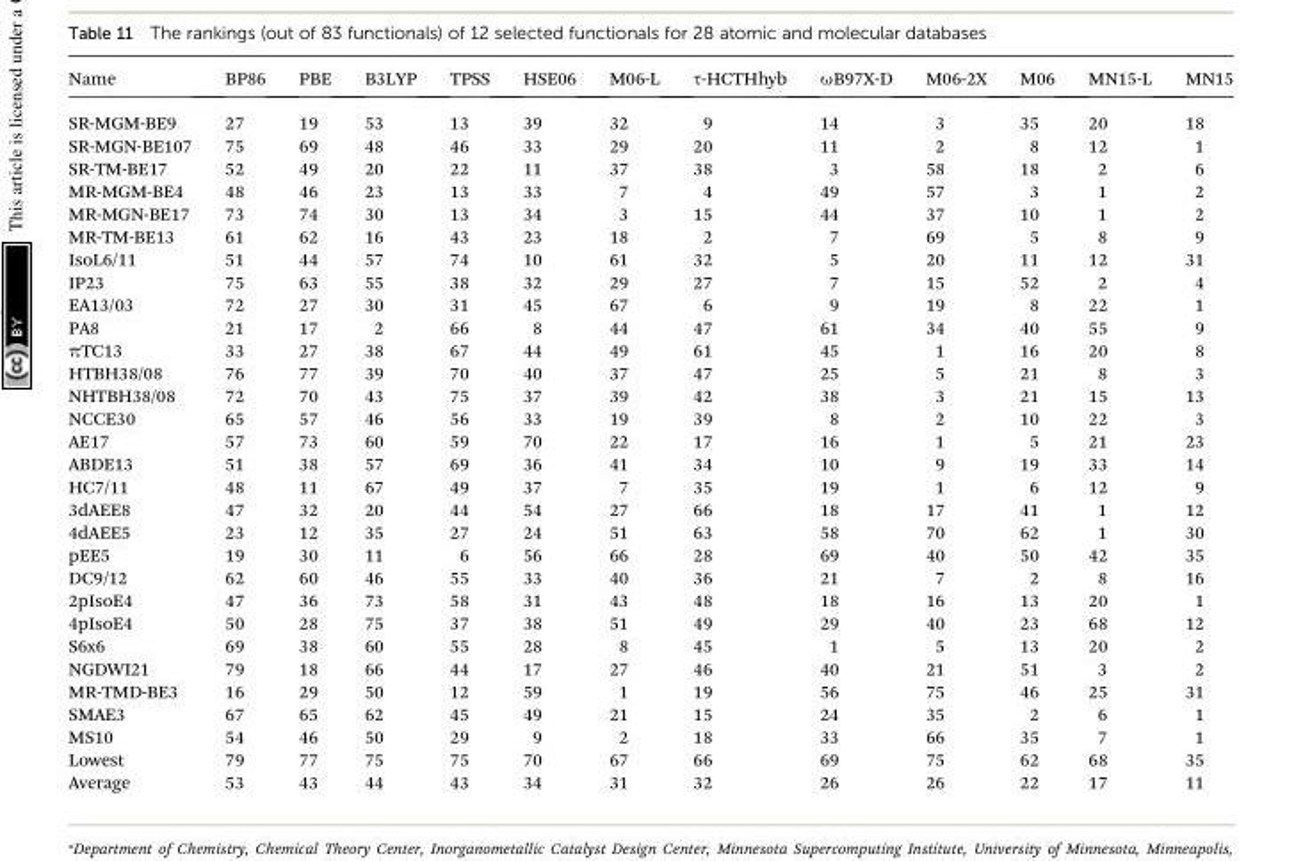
<table><thead><tr><td>Name</td><td>BP86</td><td>PBE</td><td>B3LYP</td><td>TPSS</td><td>HSE06</td><td>M06-L</td><td>τ-HCTHhyb</td><td>ωB97X-D</td><td>M06-2X</td><td>M06</td><td>MN15-L</td><td>MN15</td></tr></thead><tbody><tr><td>SR-MGM-BE9</td><td>27</td><td>19</td><td>53</td><td>13</td><td>39</td><td>32</td><td>9</td><td>14</td><td>3</td><td>35</td><td>20</td><td>18</td></tr><tr><td>SR-MGN-BE107</td><td>75</td><td>69</td><td>48</td><td>46</td><td>33</td><td>29</td><td>20</td><td>11</td><td>2</td><td>8</td><td>12</td><td>1</td></tr><tr><td>SR-TM-BE17</td><td>52</td><td>49</td><td>20</td><td>22</td><td>11</td><td>37</td><td>38</td><td>3</td><td>58</td><td>18</td><td>2</td><td>6</td></tr><tr><td>MR-MGM-BE4</td><td>48</td><td>46</td><td>23</td><td>13</td><td>33</td><td>7</td><td>4</td><td>49</td><td>57</td><td>3</td><td>1</td><td>2</td></tr><tr><td>MR-MGN-BE17</td><td>73</td><td>74</td><td>30</td><td>13</td><td>34</td><td>3</td><td>15</td><td>44</td><td>37</td><td>10</td><td>1</td><td>2</td></tr><tr><td>MR-TM-BE13</td><td>61</td><td>62</td><td>16</td><td>43</td><td>23</td><td>18</td><td>2</td><td>7</td><td>69</td><td>5</td><td>8</td><td>9</td></tr><tr><td>IsoL6/11</td><td>51</td><td>44</td><td>57</td><td>74</td><td>10</td><td>61</td><td>32</td><td>5</td><td>20</td><td>11</td><td>12</td><td>31</td></tr><tr><td>IP23</td><td>75</td><td>63</td><td>55</td><td>38</td><td>32</td><td>29</td><td>27</td><td>7</td><td>15</td><td>52</td><td>2</td><td>4</td></tr><tr><td>EA13/03</td><td>72</td><td>27</td><td>30</td><td>31</td><td>45</td><td>67</td><td>6</td><td>9</td><td>19</td><td>8</td><td>22</td><td>1</td></tr><tr><td>PA8</td><td>21</td><td>17</td><td>2</td><td>66</td><td>8</td><td>44</td><td>47</td><td>61</td><td>34</td><td>40</td><td>55</td><td>9</td></tr><tr><td>πTC13</td><td>33</td><td>27</td><td>38</td><td>67</td><td>44</td><td>49</td><td>61</td><td>45</td><td>1</td><td>16</td><td>20</td><td>8</td></tr><tr><td>HTBH38/08</td><td>76</td><td>77</td><td>39</td><td>70</td><td>40</td><td>37</td><td>47</td><td>25</td><td>5</td><td>21</td><td>8</td><td>3</td></tr><tr><td>NHTBH38/08</td><td>72</td><td>70</td><td>43</td><td>75</td><td>37</td><td>39</td><td>42</td><td>38</td><td>3</td><td>21</td><td>15</td><td>13</td></tr><tr><td>NCCE30</td><td>65</td><td>57</td><td>46</td><td>56</td><td>33</td><td>19</td><td>39</td><td>8</td><td>2</td><td>10</td><td>22</td><td>3</td></tr><tr><td>AE17</td><td>57</td><td>73</td><td>60</td><td>59</td><td>70</td><td>22</td><td>17</td><td>16</td><td>1</td><td>5</td><td>21</td><td>23</td></tr><tr><td>ABDE13</td><td>51</td><td>38</td><td>57</td><td>69</td><td>36</td><td>41</td><td>34</td><td>10</td><td>9</td><td>19</td><td>33</td><td>14</td></tr><tr><td>HC7/11</td><td>48</td><td>11</td><td>67</td><td>49</td><td>37</td><td>7</td><td>35</td><td>19</td><td>1</td><td>6</td><td>12</td><td>9</td></tr><tr><td>3dAEE8</td><td>47</td><td>32</td><td>20</td><td>44</td><td>54</td><td>27</td><td>66</td><td>18</td><td>17</td><td>41</td><td>1</td><td>12</td></tr><tr><td>4dAEE5</td><td>23</td><td>12</td><td>35</td><td>27</td><td>24</td><td>51</td><td>63</td><td>58</td><td>70</td><td>62</td><td>1</td><td>30</td></tr><tr><td>pEE5</td><td>19</td><td>30</td><td>11</td><td>6</td><td>56</td><td>66</td><td>28</td><td>69</td><td>40</td><td>50</td><td>42</td><td>35</td></tr><tr><td>DC9/12</td><td>62</td><td>60</td><td>46</td><td>55</td><td>33</td><td>40</td><td>36</td><td>21</td><td>7</td><td>2</td><td>8</td><td>16</td></tr><tr><td>2pIsoE4</td><td>47</td><td>36</td><td>73</td><td>58</td><td>31</td><td>43</td><td>48</td><td>18</td><td>16</td><td>13</td><td>20</td><td>1</td></tr><tr><td>4pIsoE4</td><td>50</td><td>28</td><td>75</td><td>37</td><td>38</td><td>51</td><td>49</td><td>29</td><td>40</td><td>23</td><td>68</td><td>12</td></tr><tr><td>S6x6</td><td>69</td><td>38</td><td>60</td><td>55</td><td>28</td><td>8</td><td>45</td><td>1</td><td>5</td><td>13</td><td>20</td><td>2</td></tr><tr><td>NGDWI21</td><td>79</td><td>18</td><td>66</td><td>44</td><td>17</td><td>27</td><td>46</td><td>40</td><td>21</td><td>51</td><td>3</td><td>2</td></tr><tr><td>MR-TMD-BE3</td><td>16</td><td>29</td><td>50</td><td>12</td><td>59</td><td>1</td><td>19</td><td>56</td><td>75</td><td>46</td><td>25</td><td>31</td></tr><tr><td>SMAE3</td><td>67</td><td>65</td><td>62</td><td>45</td><td>49</td><td>21</td><td>15</td><td>24</td><td>35</td><td>2</td><td>6</td><td>1</td></tr><tr><td>MS10</td><td>54</td><td>46</td><td>50</td><td>29</td><td>9</td><td>2</td><td>18</td><td>33</td><td>66</td><td>35</td><td>7</td><td>1</td></tr><tr><td>Lowest</td><td>79</td><td>77</td><td>75</td><td>75</td><td>70</td><td>67</td><td>66</td><td>69</td><td>75</td><td>62</td><td>68</td><td>35</td></tr><tr><td>Average</td><td>53</td><td>43</td><td>44</td><td>43</td><td>34</td><td>31</td><td>32</td><td>26</td><td>26</td><td>22</td><td>17</td><td>11</td></tr></tbody></table>